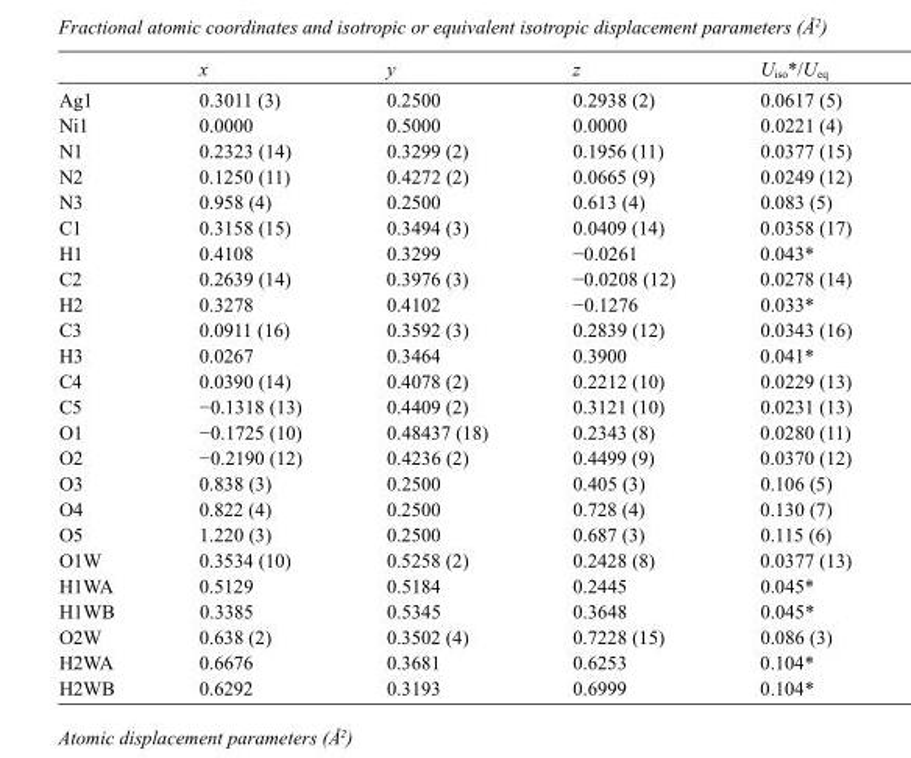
<table><thead><tr><td></td><td>x</td><td>y</td><td>z</td><td>U<sub>iso</sub>*/U<sub>eq</sub></td></tr></thead><tbody><tr><td>Ag1</td><td>0.3011 (3)</td><td>0.2500</td><td>0.2938 (2)</td><td>0.0617 (5)</td></tr><tr><td>Ni1</td><td>0.0000</td><td>0.5000</td><td>0.0000</td><td>0.0221 (4)</td></tr><tr><td>N1</td><td>0.2323 (14)</td><td>0.3299 (2)</td><td>0.1956 (11)</td><td>0.0377 (15)</td></tr><tr><td>N2</td><td>0.1250 (11)</td><td>0.4272 (2)</td><td>0.0665 (9)</td><td>0.0249 (12)</td></tr><tr><td>N3</td><td>0.958 (4)</td><td>0.2500</td><td>0.613 (4)</td><td>0.083 (5)</td></tr><tr><td>C1</td><td>0.3158 (15)</td><td>0.3494 (3)</td><td>0.0409 (14)</td><td>0.0358 (17)</td></tr><tr><td>H1</td><td>0.4108</td><td>0.3299</td><td>−0.0261</td><td>0.043*</td></tr><tr><td>C2</td><td>0.2639 (14)</td><td>0.3976 (3)</td><td>−0.0208 (12)</td><td>0.0278 (14)</td></tr><tr><td>H2</td><td>0.3278</td><td>0.4102</td><td>−0.1276</td><td>0.033*</td></tr><tr><td>C3</td><td>0.0911 (16)</td><td>0.3592 (3)</td><td>0.2839 (12)</td><td>0.0343 (16)</td></tr><tr><td>H3</td><td>0.0267</td><td>0.3464</td><td>0.3900</td><td>0.041*</td></tr><tr><td>C4</td><td>0.0390 (14)</td><td>0.4078 (2)</td><td>0.2212 (10)</td><td>0.0229 (13)</td></tr><tr><td>C5</td><td>−0.1318 (13)</td><td>0.4409 (2)</td><td>0.3121 (10)</td><td>0.0231 (13)</td></tr><tr><td>O1</td><td>−0.1725 (10)</td><td>0.48437 (18)</td><td>0.2343 (8)</td><td>0.0280 (11)</td></tr><tr><td>O2</td><td>−0.2190 (12)</td><td>0.4236 (2)</td><td>0.4499 (9)</td><td>0.0370 (12)</td></tr><tr><td>O3</td><td>0.838 (3)</td><td>0.2500</td><td>0.405 (3)</td><td>0.106 (5)</td></tr><tr><td>O4</td><td>0.822 (4)</td><td>0.2500</td><td>0.728 (4)</td><td>0.130 (7)</td></tr><tr><td>O5</td><td>1.220 (3)</td><td>0.2500</td><td>0.687 (3)</td><td>0.115 (6)</td></tr><tr><td>O1W</td><td>0.3534 (10)</td><td>0.5258 (2)</td><td>0.2428 (8)</td><td>0.0377 (13)</td></tr><tr><td>H1WA</td><td>0.5129</td><td>0.5184</td><td>0.2445</td><td>0.045*</td></tr><tr><td>H1WB</td><td>0.3385</td><td>0.5345</td><td>0.3648</td><td>0.045*</td></tr><tr><td>O2W</td><td>0.638 (2)</td><td>0.3502 (4)</td><td>0.7228 (15)</td><td>0.086 (3)</td></tr><tr><td>H2WA</td><td>0.6676</td><td>0.3681</td><td>0.6253</td><td>0.104*</td></tr><tr><td>H2WB</td><td>0.6292</td><td>0.3193</td><td>0.6999</td><td>0.104*</td></tr></tbody></table>